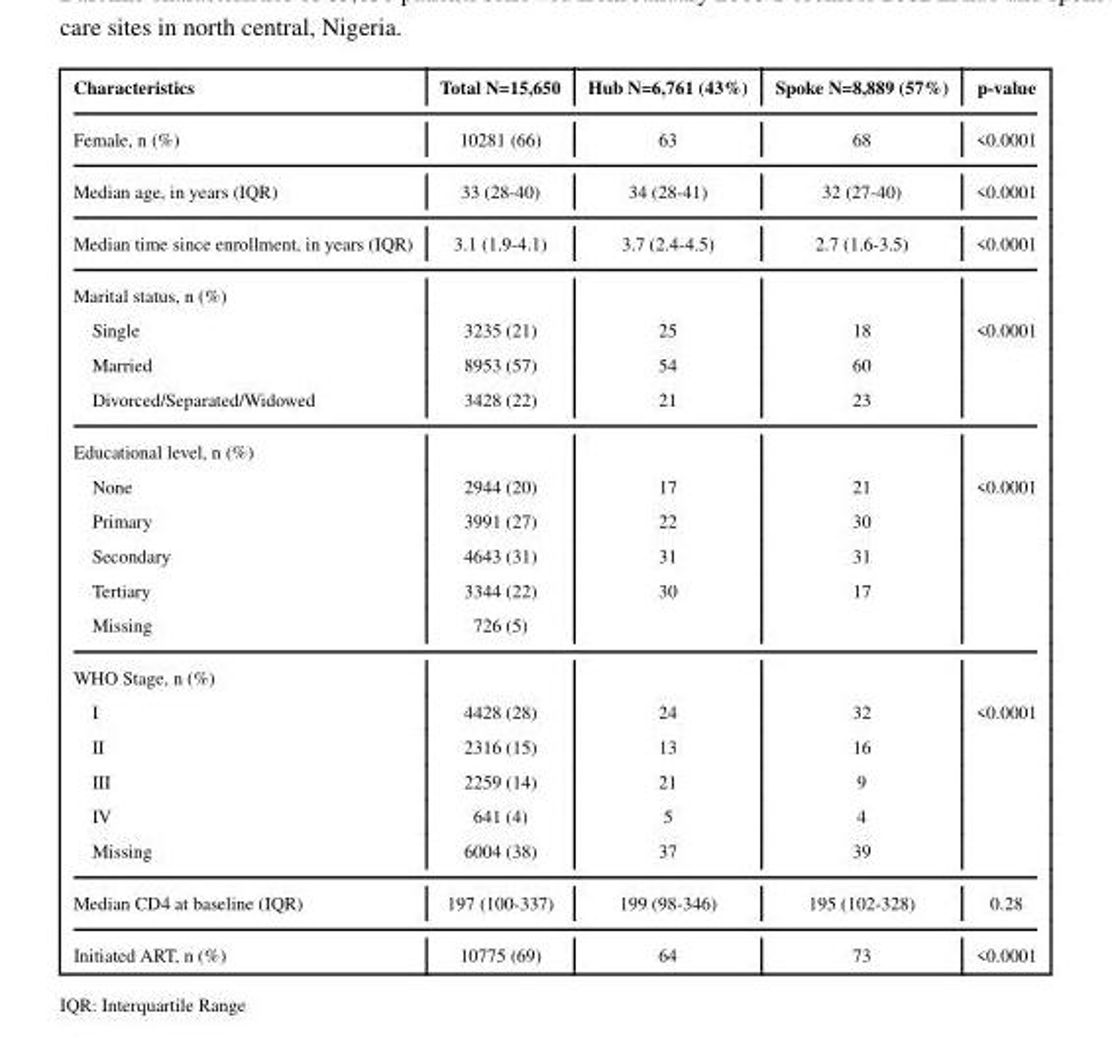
<table><thead><tr><td>Characteristics</td><td>Total N=15,650</td><td>Hub N=6,761 (43%)</td><td>Spoke N=8,889 (57%)</td><td>p-value</td></tr></thead><tbody><tr><td>Female, n (%)</td><td>10281 (66)</td><td>63</td><td>68</td><td>&lt;0.0001</td></tr><tr><td>Median age, in years (IQR)</td><td>33 (28-40)</td><td>34 (28-41)</td><td>32 (27-40)</td><td>&lt;0.0001</td></tr><tr><td>Median time since enrollment, in years (IQR)</td><td>3.1 (1.9-4.1)</td><td>3.7 (2.4-4.5)</td><td>2.7 (1.6-3.5)</td><td>&lt;0.0001</td></tr><tr><td colspan="5">Marital status, n (%)</td></tr><tr><td>Single</td><td>3235 (21)</td><td>25</td><td>18</td><td>&lt;0.0001</td></tr><tr><td>Married</td><td>8953 (57)</td><td>54</td><td>60</td><td></td></tr><tr><td>Divorced/Separated/Widowed</td><td>3428 (22)</td><td>21</td><td>23</td><td></td></tr><tr><td colspan="5">Educational level, n (%)</td></tr><tr><td>None</td><td>2944 (20)</td><td>17</td><td>21</td><td>&lt;0.0001</td></tr><tr><td>Primary</td><td>3991 (27)</td><td>22</td><td>30</td><td></td></tr><tr><td>Secondary</td><td>4643 (31)</td><td>31</td><td>31</td><td></td></tr><tr><td>Tertiary</td><td>3344 (22)</td><td>30</td><td>17</td><td></td></tr><tr><td>Missing</td><td>726 (5)</td><td></td><td></td><td></td></tr><tr><td colspan="5">WHO Stage, n (%)</td></tr><tr><td>I</td><td>4428 (28)</td><td>24</td><td>32</td><td>&lt;0.0001</td></tr><tr><td>II</td><td>2316 (15)</td><td>13</td><td>16</td><td></td></tr><tr><td>III</td><td>2259 (14)</td><td>21</td><td>9</td><td></td></tr><tr><td>IV</td><td>641 (4)</td><td>5</td><td>4</td><td></td></tr><tr><td>Missing</td><td>6004 (38)</td><td>37</td><td>39</td><td></td></tr><tr><td>Median CD4 at baseline (IQR)</td><td>197 (100-337)</td><td>199 (98-346)</td><td>195 (102-328)</td><td>0.28</td></tr><tr><td>Initiated ART, n (%)</td><td>10775 (69)</td><td>64</td><td>73</td><td>&lt;0.0001</td></tr></tbody></table>